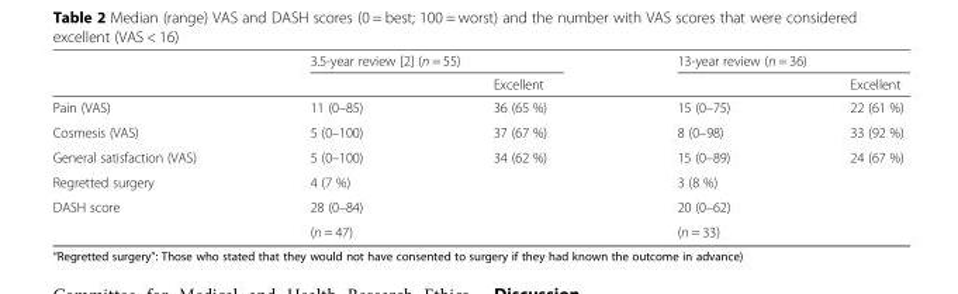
<table><thead><tr><td rowspan="2"></td><td colspan="2">3.5-year review [2] (n = 55)</td><td colspan="2">13-year review (n = 36)</td></tr><tr><td></td><td>Excellent</td><td></td><td>Excellent</td></tr></thead><tbody><tr><td>Pain (VAS)</td><td>11 (0–85)</td><td>36 (65 %)</td><td>15 (0–75)</td><td>22 (61 %)</td></tr><tr><td>Cosmesis (VAS)</td><td>5 (0–100)</td><td>37 (67 %)</td><td>8 (0–98)</td><td>33 (92 %)</td></tr><tr><td>General satisfaction (VAS)</td><td>5 (0–100)</td><td>34 (62 %)</td><td>15 (0–89)</td><td>24 (67 %)</td></tr><tr><td>Regretted surgery</td><td>4 (7 %)</td><td></td><td>3 (8 %)</td><td></td></tr><tr><td rowspan="2">DASH score</td><td>28 (0–84)</td><td rowspan="2"></td><td>20 (0–62)</td><td rowspan="2"></td></tr><tr><td>(n = 47)</td><td>(n = 33)</td></tr></tbody></table>